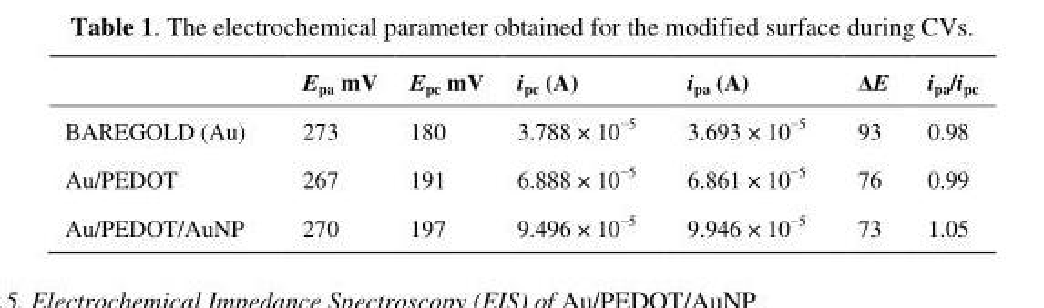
<table><thead><tr><td></td><td>E<sub>pa</sub> mV</td><td>E<sub>pc</sub> mV</td><td>i<sub>pc</sub> (A)</td><td>i<sub>pa</sub> (A)</td><td>ΔE</td><td>i<sub>pa</sub>/i<sub>pc</sub></td></tr></thead><tbody><tr><td>BAREGOLD (Au)</td><td>273</td><td>180</td><td>3.788 × 10<sup>−5</sup></td><td>3.693 × 10<sup>−5</sup></td><td>93</td><td>0.98</td></tr><tr><td>Au/PEDOT</td><td>267</td><td>191</td><td>6.888 × 10<sup>−5</sup></td><td>6.861 × 10<sup>−5</sup></td><td>76</td><td>0.99</td></tr><tr><td>Au/PEDOT/AuNP</td><td>270</td><td>197</td><td>9.496 × 10<sup>−5</sup></td><td>9.946 × 10<sup>−5</sup></td><td>73</td><td>1.05</td></tr></tbody></table>